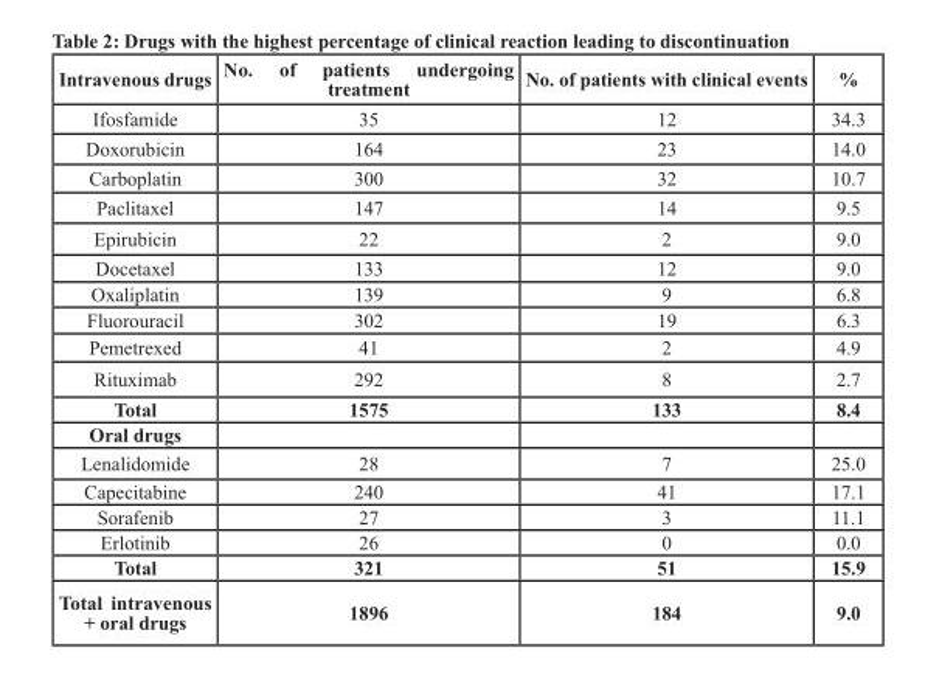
<table><thead><tr><td>Intravenous drugs</td><td>No. of patients undergoing treatment</td><td>No. of patients with clinical events</td><td>%</td></tr></thead><tbody><tr><td>Ifosfamide</td><td>35</td><td>12</td><td>34.3</td></tr><tr><td>Doxorubicin</td><td>164</td><td>23</td><td>14.0</td></tr><tr><td>Carboplatin</td><td>300</td><td>32</td><td>10.7</td></tr><tr><td>Paclitaxel</td><td>147</td><td>14</td><td>9.5</td></tr><tr><td>Epirubicin</td><td>22</td><td>2</td><td>9.0</td></tr><tr><td>Docetaxel</td><td>133</td><td>12</td><td>9.0</td></tr><tr><td>Oxaliplatin</td><td>139</td><td>9</td><td>6.8</td></tr><tr><td>Fluorouracil</td><td>302</td><td>19</td><td>6.3</td></tr><tr><td>Pemetrexed</td><td>41</td><td>2</td><td>4.9</td></tr><tr><td>Rituximab</td><td>292</td><td>8</td><td>2.7</td></tr><tr><td>Total</td><td>1575</td><td>133</td><td>8.4</td></tr><tr><td colspan="4">Oral drugs</td></tr><tr><td>Lenalidomide</td><td>28</td><td>7</td><td>25.0</td></tr><tr><td>Capecitabine</td><td>240</td><td>41</td><td>17.1</td></tr><tr><td>Sorafenib</td><td>27</td><td>3</td><td>11.1</td></tr><tr><td>Erlotinib</td><td>26</td><td>0</td><td>0.0</td></tr><tr><td>Total</td><td>321</td><td>51</td><td>15.9</td></tr><tr><td>Total intravenous + oral drugs</td><td>1896</td><td>184</td><td>9.0</td></tr></tbody></table>